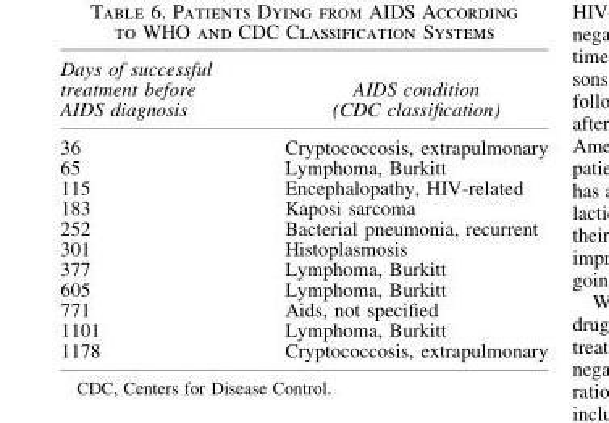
<table><thead><tr><td>Days of successful treatment before AIDS diagnosis</td><td>AIDS condition (CDC classification)</td></tr></thead><tbody><tr><td>36</td><td>Cryptococcosis, extrapulmonary</td></tr><tr><td>65</td><td>Lymphoma, Burkitt</td></tr><tr><td>115</td><td>Encephalopathy, HIV-related</td></tr><tr><td>183</td><td>Kaposi sarcoma</td></tr><tr><td>252</td><td>Bacterial pneumonia, recurrent</td></tr><tr><td>301</td><td>Histoplasmosis</td></tr><tr><td>377</td><td>Lymphoma, Burkitt</td></tr><tr><td>605</td><td>Lymphoma, Burkitt</td></tr><tr><td>771</td><td>Aids, not specified</td></tr><tr><td>1101</td><td>Lymphoma, Burkitt</td></tr><tr><td>1178</td><td>Cryptococcosis, extrapulmonary</td></tr></tbody></table>